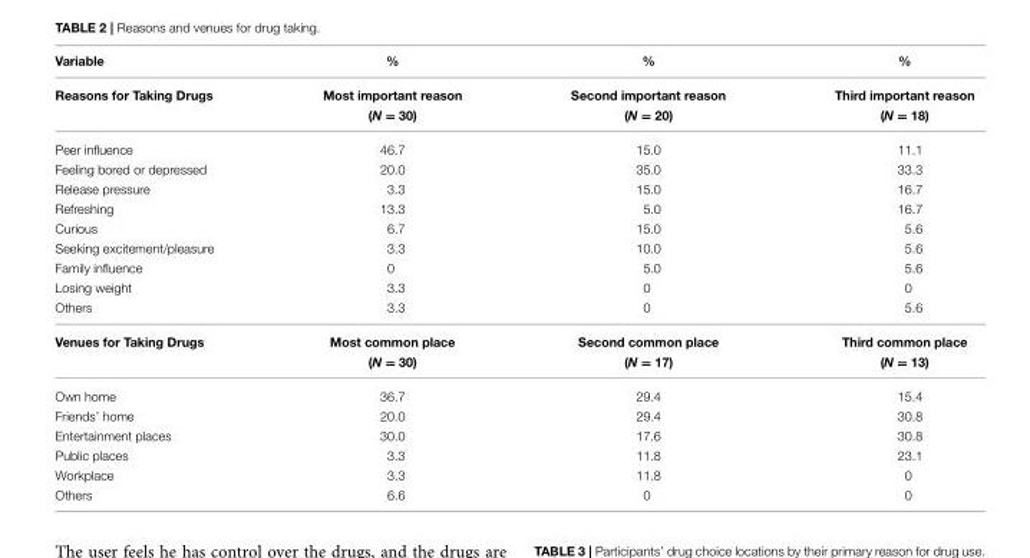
<table><thead><tr><td>Variable</td><td>%</td><td>%</td><td>%</td></tr></thead><tbody><tr><td rowspan="2">Reasons for Taking Drugs</td><td>Most important reason</td><td>Second important reason</td><td>Third important reason</td></tr><tr><td>(N = 30)</td><td>(N = 20)</td><td>(N = 18)</td></tr><tr><td>Peer influence</td><td>46.7</td><td>15.0</td><td>11.1</td></tr><tr><td>Feeling bored or depressed</td><td>20.0</td><td>35.0</td><td>33.3</td></tr><tr><td>Release pressure</td><td>3.3</td><td>15.0</td><td>16.7</td></tr><tr><td>Refreshing</td><td>13.3</td><td>5.0</td><td>16.7</td></tr><tr><td>Curious</td><td>6.7</td><td>15.0</td><td>5.6</td></tr><tr><td>Seeking excitement/pleasure</td><td>3.3</td><td>10.0</td><td>5.6</td></tr><tr><td>Family influence</td><td>0</td><td>5.0</td><td>5.6</td></tr><tr><td>Losing weight</td><td>3.3</td><td>0</td><td>0</td></tr><tr><td>Others</td><td>3.3</td><td>0</td><td>5.6</td></tr><tr><td rowspan="2">Venues for Taking Drugs</td><td>Most common place</td><td>Second common place</td><td>Third common place</td></tr><tr><td>(N = 30)</td><td>(N = 17)</td><td>(N = 13)</td></tr><tr><td>Own home</td><td>36.7</td><td>29.4</td><td>15.4</td></tr><tr><td>Friends’ home</td><td>20.0</td><td>29.4</td><td>30.8</td></tr><tr><td>Entertainment places</td><td>30.0</td><td>17.6</td><td>30.8</td></tr><tr><td>Public places</td><td>3.3</td><td>11.8</td><td>23.1</td></tr><tr><td>Workplace</td><td>3.3</td><td>11.8</td><td>0</td></tr><tr><td>Others</td><td>6.6</td><td>0</td><td>0</td></tr></tbody></table>